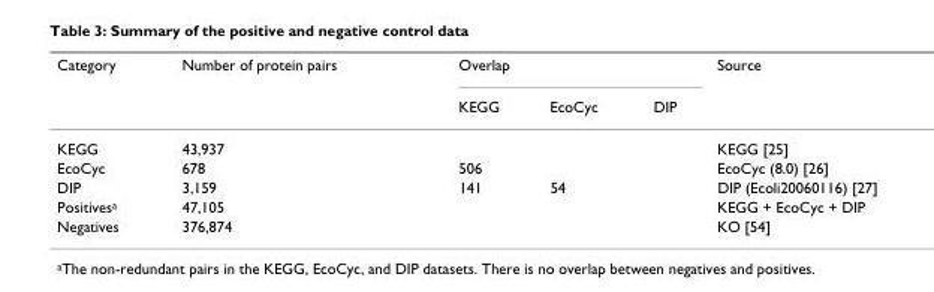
<table><thead><tr><td rowspan="2">Category</td><td rowspan="2">Number of protein pairs</td><td colspan="3">Overlap</td><td rowspan="2">Source</td></tr><tr><td>KEGG</td><td>EcoCyc</td><td>DIP</td></tr></thead><tbody><tr><td>KEGG</td><td>43,937</td><td></td><td></td><td></td><td>KEGG [25]</td></tr><tr><td>EcoCyc</td><td>678</td><td>506</td><td></td><td></td><td>EcoCyc (8.0) [26]</td></tr><tr><td>DIP</td><td>3,159</td><td>141</td><td>54</td><td></td><td>DIP (Ecoli20060116) [27]</td></tr><tr><td>Positives<sup>a</sup></td><td>47,105</td><td></td><td></td><td></td><td>KEGG + EcoCyc + DIP</td></tr><tr><td>Negatives</td><td>376,874</td><td></td><td></td><td></td><td>KO [54]</td></tr></tbody></table>